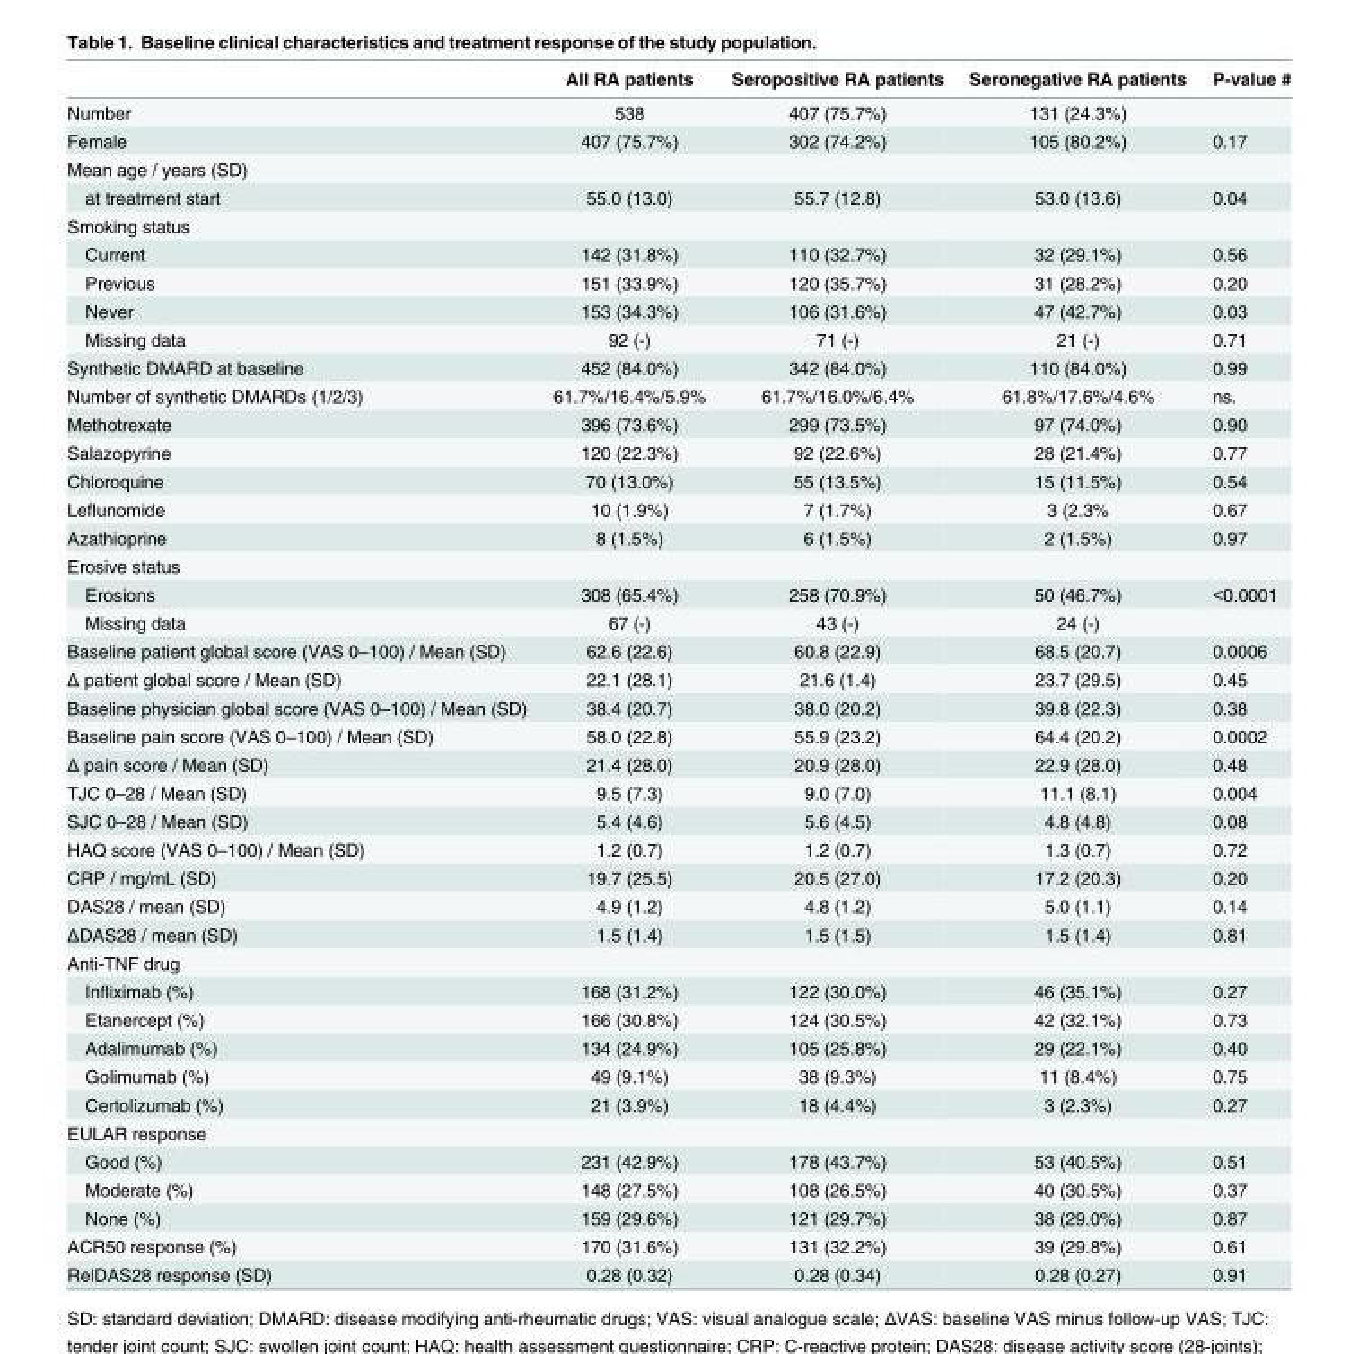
<table><thead><tr><td></td><td>All RA patients</td><td>Seropositive RA patients</td><td>Seronegative RA patients</td><td>P-value #</td></tr></thead><tbody><tr><td>Number</td><td>538</td><td>407 (75.7%)</td><td>131 (24.3%)</td><td></td></tr><tr><td>Female</td><td>407 (75.7%)</td><td>302 (74.2%)</td><td>105 (80.2%)</td><td>0.17</td></tr><tr><td colspan="5">Mean age / years (SD)</td></tr><tr><td>at treatment start</td><td>55.0 (13.0)</td><td>55.7 (12.8)</td><td>53.0 (13.6)</td><td>0.04</td></tr><tr><td colspan="5">Smoking status</td></tr><tr><td>Current</td><td>142 (31.8%)</td><td>110 (32.7%)</td><td>32 (29.1%)</td><td>0.56</td></tr><tr><td>Previous</td><td>151 (33.9%)</td><td>120 (35.7%)</td><td>31 (28.2%)</td><td>0.20</td></tr><tr><td>Never</td><td>153 (34.3%)</td><td>106 (31.6%)</td><td>47 (42.7%)</td><td>0.03</td></tr><tr><td>Missing data</td><td>92 (-)</td><td>71 (-)</td><td>21 (-)</td><td>0.71</td></tr><tr><td>Synthetic DMARD at baseline</td><td>452 (84.0%)</td><td>342 (84.0%)</td><td>110 (84.0%)</td><td>0.99</td></tr><tr><td>Number of synthetic DMARDs (1/2/3)</td><td>61.7%/16.4%/5.9%</td><td>61.7%/16.0%/6.4%</td><td>61.8%/17.6%/4.6%</td><td>ns.</td></tr><tr><td>Methotrexate</td><td>396 (73.6%)</td><td>299 (73.5%)</td><td>97 (74.0%)</td><td>0.90</td></tr><tr><td>Salazopyrine</td><td>120 (22.3%)</td><td>92 (22.6%)</td><td>28 (21.4%)</td><td>0.77</td></tr><tr><td>Chloroquine</td><td>70 (13.0%)</td><td>55 (13.5%)</td><td>15 (11.5%)</td><td>0.54</td></tr><tr><td>Leflunomide</td><td>10 (1.9%)</td><td>7 (1.7%)</td><td>3 (2.3%</td><td>0.67</td></tr><tr><td>Azathioprine</td><td>8 (1.5%)</td><td>6 (1.5%)</td><td>2 (1.5%)</td><td>0.97</td></tr><tr><td colspan="5">Erosive status</td></tr><tr><td>Erosions</td><td>308 (65.4%)</td><td>258 (70.9%)</td><td>50 (46.7%)</td><td>&lt;0.0001</td></tr><tr><td>Missing data</td><td>67 (-)</td><td>43 (-)</td><td>24 (-)</td><td></td></tr><tr><td>Baseline patient global score (VAS 0–100) / Mean (SD)</td><td>62.6 (22.6)</td><td>60.8 (22.9)</td><td>68.5 (20.7)</td><td>0.0006</td></tr><tr><td>Δ patient global score / Mean (SD)</td><td>22.1 (28.1)</td><td>21.6 (1.4)</td><td>23.7 (29.5)</td><td>0.45</td></tr><tr><td>Baseline physician global score (VAS 0–100) / Mean (SD)</td><td>38.4 (20.7)</td><td>38.0 (20.2)</td><td>39.8 (22.3)</td><td>0.38</td></tr><tr><td>Baseline pain score (VAS 0–100) / Mean (SD)</td><td>58.0 (22.8)</td><td>55.9 (23.2)</td><td>64.4 (20.2)</td><td>0.0002</td></tr><tr><td>Δ pain score / Mean (SD)</td><td>21.4 (28.0)</td><td>20.9 (28.0)</td><td>22.9 (28.0)</td><td>0.48</td></tr><tr><td>TJC 0–28 / Mean (SD)</td><td>9.5 (7.3)</td><td>9.0 (7.0)</td><td>11.1 (8.1)</td><td>0.004</td></tr><tr><td>SJC 0–28 / Mean (SD)</td><td>5.4 (4.6)</td><td>5.6 (4.5)</td><td>4.8 (4.8)</td><td>0.08</td></tr><tr><td>HAQ score (VAS 0–100) / Mean (SD)</td><td>1.2 (0.7)</td><td>1.2 (0.7)</td><td>1.3 (0.7)</td><td>0.72</td></tr><tr><td>CRP / mg/mL (SD)</td><td>19.7 (25.5)</td><td>20.5 (27.0)</td><td>17.2 (20.3)</td><td>0.20</td></tr><tr><td>DAS28 / mean (SD)</td><td>4.9 (1.2)</td><td>4.8 (1.2)</td><td>5.0 (1.1)</td><td>0.14</td></tr><tr><td>ΔDAS28 / mean (SD)</td><td>1.5 (1.4)</td><td>1.5 (1.5)</td><td>1.5 (1.4)</td><td>0.81</td></tr><tr><td colspan="5">Anti-TNF drug</td></tr><tr><td>Infliximab (%)</td><td>168 (31.2%)</td><td>122 (30.0%)</td><td>46 (35.1%)</td><td>0.27</td></tr><tr><td>Etanercept (%)</td><td>166 (30.8%)</td><td>124 (30.5%)</td><td>42 (32.1%)</td><td>0.73</td></tr><tr><td>Adalimumab (%)</td><td>134 (24.9%)</td><td>105 (25.8%)</td><td>29 (22.1%)</td><td>0.40</td></tr><tr><td>Golimumab (%)</td><td>49 (9.1%)</td><td>38 (9.3%)</td><td>11 (8.4%)</td><td>0.75</td></tr><tr><td>Certolizumab (%)</td><td>21 (3.9%)</td><td>18 (4.4%)</td><td>3 (2.3%)</td><td>0.27</td></tr><tr><td colspan="5">EULAR response</td></tr><tr><td>Good (%)</td><td>231 (42.9%)</td><td>178 (43.7%)</td><td>53 (40.5%)</td><td>0.51</td></tr><tr><td>Moderate (%)</td><td>148 (27.5%)</td><td>108 (26.5%)</td><td>40 (30.5%)</td><td>0.37</td></tr><tr><td>None (%)</td><td>159 (29.6%)</td><td>121 (29.7%)</td><td>38 (29.0%)</td><td>0.87</td></tr><tr><td>ACR50 response (%)</td><td>170 (31.6%)</td><td>131 (32.2%)</td><td>39 (29.8%)</td><td>0.61</td></tr><tr><td>RelDAS28 response (SD)</td><td>0.28 (0.32)</td><td>0.28 (0.34)</td><td>0.28 (0.27)</td><td>0.91</td></tr></tbody></table>